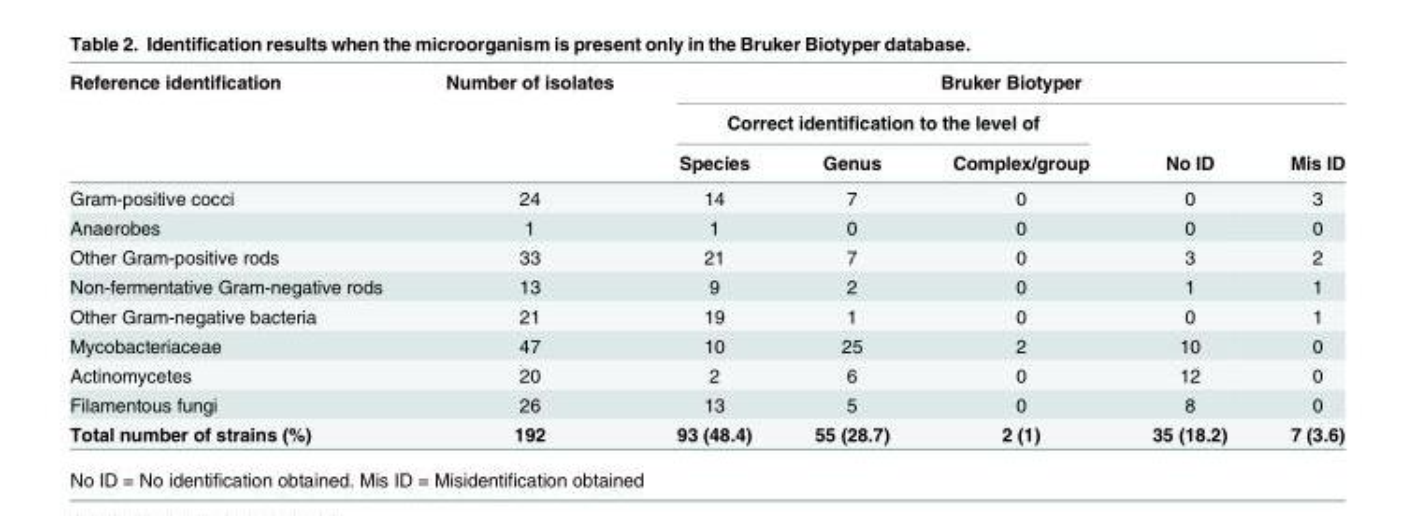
<table><thead><tr><td rowspan="3">Reference identification</td><td rowspan="3">Number of isolates</td><td colspan="5">Bruker Biotyper</td></tr><tr><td colspan="3">Correct identification to the level of</td><td rowspan="2">No ID</td><td rowspan="2">Mis ID</td></tr><tr><td>Species</td><td>Genus</td><td>Complex/group</td></tr></thead><tbody><tr><td>Gram-positive cocci</td><td>24</td><td>14</td><td>7</td><td>0</td><td>0</td><td>3</td></tr><tr><td>Anaerobes</td><td>1</td><td>1</td><td>0</td><td>0</td><td>0</td><td>0</td></tr><tr><td>Other Gram-positive rods</td><td>33</td><td>21</td><td>7</td><td>0</td><td>3</td><td>2</td></tr><tr><td>Non-fermentative Gram-negative rods</td><td>13</td><td>9</td><td>2</td><td>0</td><td>1</td><td>1</td></tr><tr><td>Other Gram-negative bacteria</td><td>21</td><td>19</td><td>1</td><td>0</td><td>0</td><td>1</td></tr><tr><td>Mycobacteriaceae</td><td>47</td><td>10</td><td>25</td><td>2</td><td>10</td><td>0</td></tr><tr><td>Actinomycetes</td><td>20</td><td>2</td><td>6</td><td>0</td><td>12</td><td>0</td></tr><tr><td>Filamentous fungi</td><td>26</td><td>13</td><td>5</td><td>0</td><td>8</td><td>0</td></tr><tr><td>Total number of strains (%)</td><td>192</td><td>93 (48.4)</td><td>55 (28.7)</td><td>2 (1)</td><td>35 (18.2)</td><td>7 (3.6)</td></tr></tbody></table>